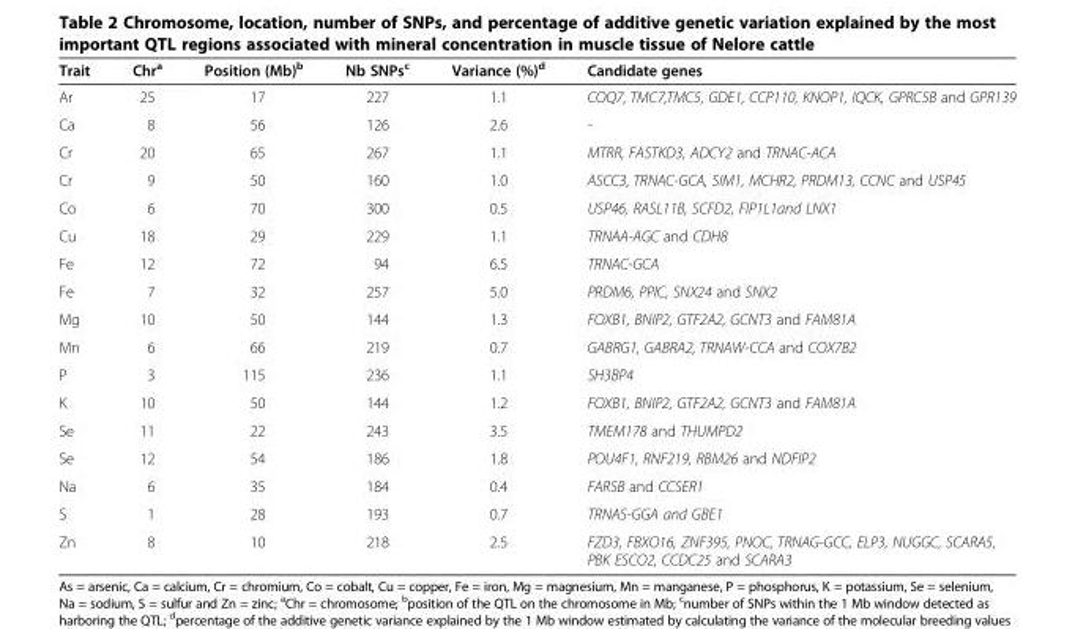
<table><thead><tr><td>Trait</td><td>Chr<sup>a</sup></td><td>Position (Mb)<sup>b</sup></td><td>Nb SNPs<sup>c</sup></td><td>Variance (%)<sup>d</sup></td><td>Candidate genes</td></tr></thead><tbody><tr><td>Ar</td><td>25</td><td>17</td><td>227</td><td>1.1</td><td>COQ7, TMC7,TMC5, GDE1, CCP110, KNOP1, IQCK, GPRC5B and GPR139</td></tr><tr><td>Ca</td><td>8</td><td>56</td><td>126</td><td>2.6</td><td>-</td></tr><tr><td>Cr</td><td>20</td><td>65</td><td>267</td><td>1.1</td><td>MTRR, FASTKD3, ADCY2 and TRNAC-ACA</td></tr><tr><td>Cr</td><td>9</td><td>50</td><td>160</td><td>1.0</td><td>ASCC3, TRNAC-GCA, SIM1, MCHR2, PRDM13, CCNC and USP45</td></tr><tr><td>Co</td><td>6</td><td>70</td><td>300</td><td>0.5</td><td>USP46, RASL11B, SCFD2, FIP1L1and LNX1</td></tr><tr><td>Cu</td><td>18</td><td>29</td><td>229</td><td>1.1</td><td>TRNAA-AGC and CDH8</td></tr><tr><td>Fe</td><td>12</td><td>72</td><td>94</td><td>6.5</td><td>TRNAC-GCA</td></tr><tr><td>Fe</td><td>7</td><td>32</td><td>257</td><td>5.0</td><td>PRDM6, PPIC, SNX24 and SNX2</td></tr><tr><td>Mg</td><td>10</td><td>50</td><td>144</td><td>1.3</td><td>FOXB1, BNIP2, GTF2A2, GCNT3 and FAM81A</td></tr><tr><td>Mn</td><td>6</td><td>66</td><td>219</td><td>0.7</td><td>GABRG1, GABRA2, TRNAW-CCA and COX7B2</td></tr><tr><td>P</td><td>3</td><td>115</td><td>236</td><td>1.1</td><td>SH3BP4</td></tr><tr><td>K</td><td>10</td><td>50</td><td>144</td><td>1.2</td><td>FOXB1, BNIP2, GTF2A2, GCNT3 and FAM81A</td></tr><tr><td>Se</td><td>11</td><td>22</td><td>243</td><td>3.5</td><td>TMEM178 and THUMPD2</td></tr><tr><td>Se</td><td>12</td><td>54</td><td>186</td><td>1.8</td><td>POU4F1, RNF219, RBM26 and NDFIP2</td></tr><tr><td>Na</td><td>6</td><td>35</td><td>184</td><td>0.4</td><td>FARSB and CCSER1</td></tr><tr><td>S</td><td>1</td><td>28</td><td>193</td><td>0.7</td><td>TRNAS-GGA and GBE1</td></tr><tr><td>Zn</td><td>8</td><td>10</td><td>218</td><td>2.5</td><td>FZD3, FBXO16, ZNF395, PNOC, TRNAG-GCC, ELP3, NUGGC, SCARA5, PBK ESCO2, CCDC25 and SCARA3</td></tr></tbody></table>